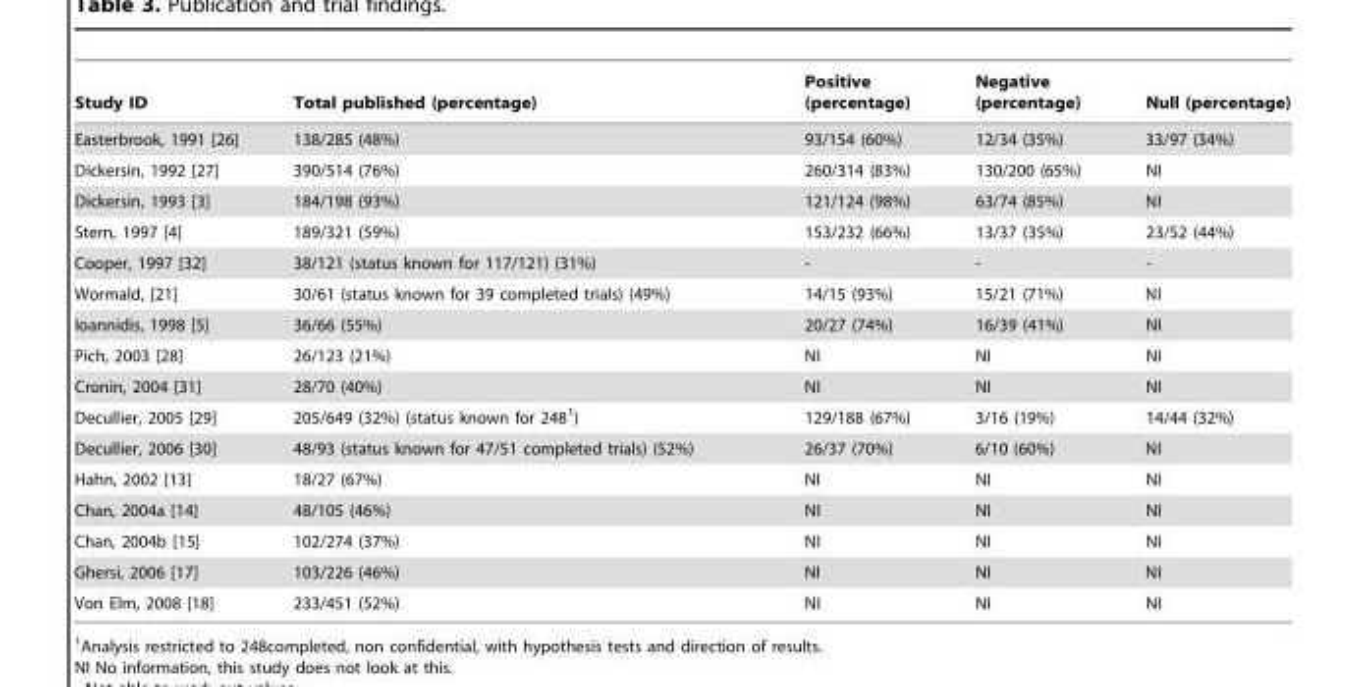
<table><thead><tr><td>Study ID</td><td>Total published (percentage)</td><td>Positive (percentage)</td><td>Negative (percentage)</td><td>Null (percentage)</td></tr></thead><tbody><tr><td>Easterbrook, 1991 [26]</td><td>138/285 (48%)</td><td>93/154 (60%)</td><td>12/34 (35%)</td><td>33/97 (34%)</td></tr><tr><td>Dickersin, 1992 [27]</td><td>390/514 (76%)</td><td>260/314 (83%)</td><td>130/200 (65%)</td><td>NI</td></tr><tr><td>Dickersin, 1993 [3]</td><td>184/198 (93%)</td><td>121/124 (98%)</td><td>63/74 (85%)</td><td>NI</td></tr><tr><td>Stern, 1997 [4]</td><td>189/321 (59%)</td><td>153/232 (66%)</td><td>13/37 (35%)</td><td>23/52 (44%)</td></tr><tr><td>Cooper, 1997 [32]</td><td>38/121 (status known for 117/121) (31%)</td><td>-</td><td>-</td><td>-</td></tr><tr><td>Wormald, [21]</td><td>30/61 (status known for 39 completed trials) (49%)</td><td>14/15 (93%)</td><td>15/21 (71%)</td><td>NI</td></tr><tr><td>Ioannidis, 1998 [5]</td><td>36/66 (55%)</td><td>20/27 (74%)</td><td>16/39 (41%)</td><td>NI</td></tr><tr><td>Pich, 2003 [28]</td><td>26/123 (21%)</td><td>NI</td><td>NI</td><td>NI</td></tr><tr><td>Cronin, 2004 [31]</td><td>28/70 (40%)</td><td>NI</td><td>NI</td><td>NI</td></tr><tr><td>Decullier, 2005 [29]</td><td>205/649 (32%) (status known for 248<sup>1</sup>)</td><td>129/188 (67%)</td><td>3/16 (19%)</td><td>14/44 (32%)</td></tr><tr><td>Decullier, 2006 [30]</td><td>48/93 (status known for 47/51 completed trials) (52%)</td><td>26/37 (70%)</td><td>6/10 (60%)</td><td>NI</td></tr><tr><td>Hahn, 2002 [13]</td><td>18/27 (67%)</td><td>NI</td><td>NI</td><td>NI</td></tr><tr><td>Chan, 2004a [14]</td><td>48/105 (46%)</td><td>NI</td><td>NI</td><td>NI</td></tr><tr><td>Chan, 2004b [15]</td><td>102/274 (37%)</td><td>NI</td><td>NI</td><td>NI</td></tr><tr><td>Ghersi, 2006 [17]</td><td>103/226 (46%)</td><td>NI</td><td>NI</td><td>NI</td></tr><tr><td>Von Elm, 2008 [18]</td><td>233/451 (52%)</td><td>NI</td><td>NI</td><td>NI</td></tr></tbody></table>